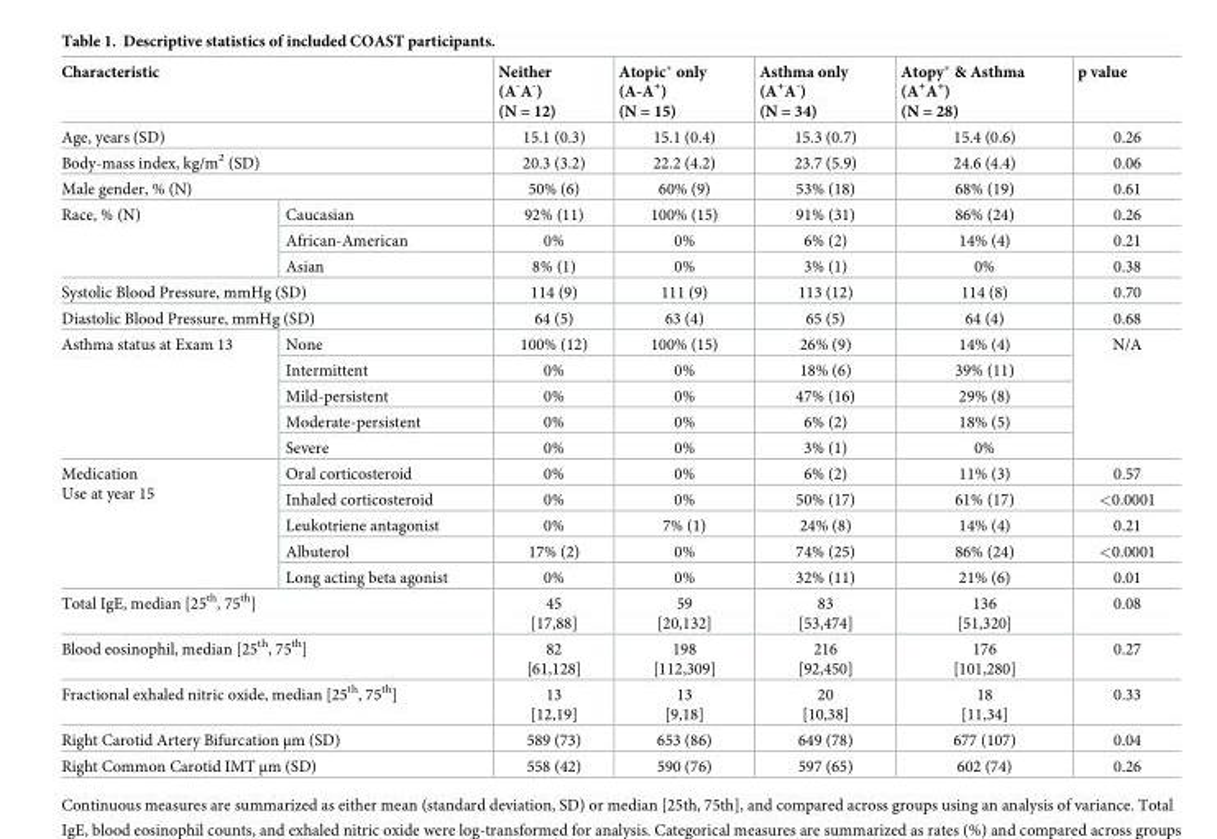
<table><thead><tr><td colspan="2">Characteristic</td><td>Neither (A<sup>-</sup>A<sup>-</sup>) (N = 12)</td><td>Atopic* only (A-A<sup>+</sup>) (N = 15)</td><td>Asthma only (A<sup>+</sup>A<sup>-</sup>) (N = 34)</td><td>Atopy* &amp; Asthma (A<sup>+</sup>A<sup>+</sup>) (N = 28)</td><td>p value</td></tr></thead><tbody><tr><td colspan="2">Age, years (SD)</td><td>15.1 (0.3)</td><td>15.1 (0.4)</td><td>15.3 (0.7)</td><td>15.4 (0.6)</td><td>0.26</td></tr><tr><td colspan="2">Body-mass index, kg/m<sup>2</sup> (SD)</td><td>20.3 (3.2)</td><td>22.2 (4.2)</td><td>23.7 (5.9)</td><td>24.6 (4.4)</td><td>0.06</td></tr><tr><td colspan="2">Male gender, % (N)</td><td>50% (6)</td><td>60% (9)</td><td>53% (18)</td><td>68% (19)</td><td>0.61</td></tr><tr><td rowspan="3">Race, % (N)</td><td>Caucasian</td><td>92% (11)</td><td>100% (15)</td><td>91% (31)</td><td>86% (24)</td><td>0.26</td></tr><tr><td>African-American</td><td>0%</td><td>0%</td><td>6% (2)</td><td>14% (4)</td><td>0.21</td></tr><tr><td>Asian</td><td>8% (1)</td><td>0%</td><td>3% (1)</td><td>0%</td><td>0.38</td></tr><tr><td colspan="2">Systolic Blood Pressure, mmHg (SD)</td><td>114 (9)</td><td>111 (9)</td><td>113 (12)</td><td>114 (8)</td><td>0.70</td></tr><tr><td colspan="2">Diastolic Blood Pressure, mmHg (SD)</td><td>64 (5)</td><td>63 (4)</td><td>65 (5)</td><td>64 (4)</td><td>0.68</td></tr><tr><td rowspan="5">Asthma status at Exam 13</td><td>None</td><td>100% (12)</td><td>100% (15)</td><td>26% (9)</td><td>14% (4)</td><td rowspan="5">N/A</td></tr><tr><td>Intermittent</td><td>0%</td><td>0%</td><td>18% (6)</td><td>39% (11)</td></tr><tr><td>Mild-persistent</td><td>0%</td><td>0%</td><td>47% (16)</td><td>29% (8)</td></tr><tr><td>Moderate-persistent</td><td>0%</td><td>0%</td><td>6% (2)</td><td>18% (5)</td></tr><tr><td>Severe</td><td>0%</td><td>0%</td><td>3% (1)</td><td>0%</td></tr><tr><td rowspan="5">Medication Use at year 15</td><td>Oral corticosteroid</td><td>0%</td><td>0%</td><td>6% (2)</td><td>11% (3)</td><td>0.57</td></tr><tr><td>Inhaled corticosteroid</td><td>0%</td><td>0%</td><td>50% (17)</td><td>61% (17)</td><td>&lt;0.0001</td></tr><tr><td>Leukotriene antagonist</td><td>0%</td><td>7% (1)</td><td>24% (8)</td><td>14% (4)</td><td>0.21</td></tr><tr><td>Albuterol</td><td>17% (2)</td><td>0%</td><td>74% (25)</td><td>86% (24)</td><td>&lt;0.0001</td></tr><tr><td>Long acting beta agonist</td><td>0%</td><td>0%</td><td>32% (11)</td><td>21% (6)</td><td>0.01</td></tr><tr><td colspan="2">Total IgE, median [25<sup>th</sup>, 75<sup>th</sup>]</td><td>45 [17,88]</td><td>59 [20,132]</td><td>83 [53,474]</td><td>136 [51,320]</td><td>0.08</td></tr><tr><td colspan="2">Blood eosinophil, median [25<sup>th</sup>, 75<sup>th</sup>]</td><td>82 [61,128]</td><td>198 [112,309]</td><td>216 [92,450]</td><td>176 [101,280]</td><td>0.27</td></tr><tr><td colspan="2">Fractional exhaled nitric oxide, median [25<sup>th</sup>, 75<sup>th</sup>]</td><td>13 [12,19]</td><td>13 [9,18]</td><td>20 [10,38]</td><td>18 [11,34]</td><td>0.33</td></tr><tr><td colspan="2">Right Carotid Artery Bifurcation μm (SD)</td><td>589 (73)</td><td>653 (86)</td><td>649 (78)</td><td>677 (107)</td><td>0.04</td></tr><tr><td colspan="2">Right Common Carotid IMT μm (SD)</td><td>558 (42)</td><td>590 (76)</td><td>597 (65)</td><td>602 (74)</td><td>0.26</td></tr></tbody></table>